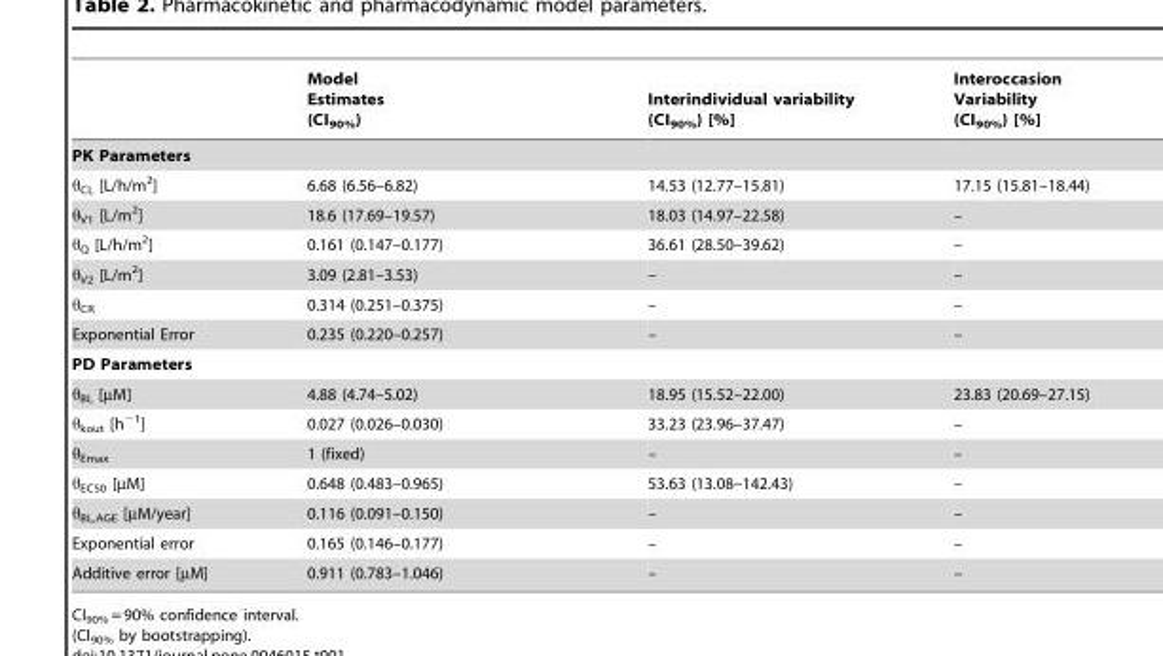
<table><thead><tr><td></td><td>Model Estimates (CI<sub>90%</sub>)</td><td>Interindividual variability (CI<sub>90%</sub>) [%]</td><td>Interoccasion Variability (CI<sub>90%</sub>) [%]</td></tr></thead><tbody><tr><td colspan="4">PK Parameters</td></tr><tr><td>θ<sub>CL</sub> [L/h/m<sup>2</sup>]</td><td>6.68 (6.56–6.82)</td><td>14.53 (12.77–15.81)</td><td>17.15 (15.81–18.44)</td></tr><tr><td>θ<sub>V1</sub> [L/m<sup>2</sup>]</td><td>18.6 (17.69–19.57)</td><td>18.03 (14.97–22.58)</td><td>–</td></tr><tr><td>θ<sub>Q</sub> [L/h/m<sup>2</sup>]</td><td>0.161 (0.147–0.177)</td><td>36.61 (28.50–39.62)</td><td>–</td></tr><tr><td>θ<sub>V2</sub> [L/m<sup>2</sup>]</td><td>3.09 (2.81–3.53)</td><td>–</td><td>–</td></tr><tr><td>θ<sub>CR</sub></td><td>0.314 (0.251–0.375)</td><td>–</td><td>–</td></tr><tr><td>Exponential Error</td><td>0.235 (0.220–0.257)</td><td>–</td><td>–</td></tr><tr><td colspan="4">PD Parameters</td></tr><tr><td>θ<sub>BL</sub> [µM]</td><td>4.88 (4.74–5.02)</td><td>18.95 (15.52–22.00)</td><td>23.83 (20.69–27.15)</td></tr><tr><td>θ<sub>kout</sub> [h<sup>−1</sup>]</td><td>0.027 (0.026–0.030)</td><td>33.23 (23.96–37.47)</td><td>–</td></tr><tr><td>θ<sub>Emax</sub></td><td>1 (fixed)</td><td>–</td><td>–</td></tr><tr><td>θ<sub>EC50</sub> [µM]</td><td>0.648 (0.483–0.965)</td><td>53.63 (13.08–142.43)</td><td>–</td></tr><tr><td>θ<sub>BL,AGE</sub> [µM/year]</td><td>0.116 (0.091–0.150)</td><td>–</td><td>–</td></tr><tr><td>Exponential error</td><td>0.165 (0.146–0.177)</td><td>–</td><td>–</td></tr><tr><td>Additive error [µM]</td><td>0.911 (0.783–1.046)</td><td>–</td><td>–</td></tr></tbody></table>